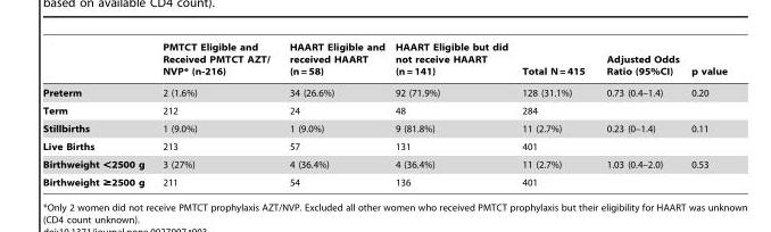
<table><thead><tr><td></td><td>PMTCT Eligible and Received PMTCT AZT/ NVP* (n-216)</td><td>HAART Eligible and received HAART (n = 58)</td><td>HAART Eligible but did not receive HAART (n = 141)</td><td>Total N = 415</td><td>Adjusted Odds Ratio (95%CI)</td><td>p value</td></tr></thead><tbody><tr><td>Preterm</td><td>2 (1.6%)</td><td>34 (26.6%)</td><td>92 (71.9%)</td><td>128 (31.1%)</td><td>0.73 (0.4–1.4)</td><td>0.20</td></tr><tr><td>Term</td><td>212</td><td>24</td><td>48</td><td>284</td><td></td><td></td></tr><tr><td>Stillbirths</td><td>1 (9.0%)</td><td>1 (9.0%)</td><td>9 (81.8%)</td><td>11 (2.7%)</td><td>0.23 (0–1.4)</td><td>0.11</td></tr><tr><td>Live Births</td><td>213</td><td>57</td><td>131</td><td>401</td><td></td><td></td></tr><tr><td>Birthweight &lt;2500 g</td><td>3 (27%)</td><td>4 (36.4%)</td><td>4 (36.4%)</td><td>11 (2.7%)</td><td>1.03 (0.4–2.0)</td><td>0.53</td></tr><tr><td>Birthweight ≥2500 g</td><td>211</td><td>54</td><td>136</td><td>401</td><td></td><td></td></tr></tbody></table>